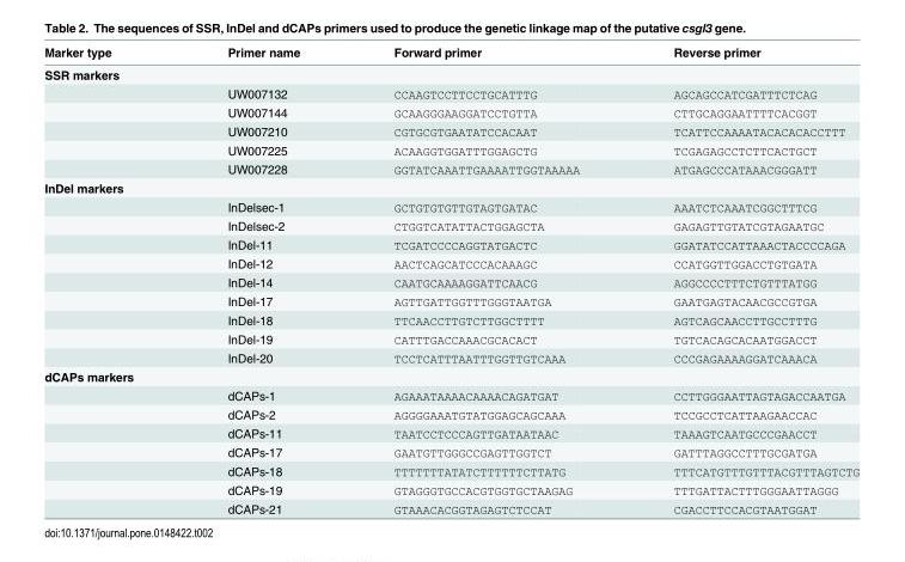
<table><thead><tr><td>Marker type</td><td>Primer name</td><td>Forward primer</td><td>Reverse primer</td></tr></thead><tbody><tr><td colspan="4">SSR markers</td></tr><tr><td></td><td>UW007132</td><td>CCAAGTCCTTCCTGCATTTG</td><td>AGCAGCCATCGATTTCTCAG</td></tr><tr><td></td><td>UW007144</td><td>GCAAGGGAAGGATCCTGTTA</td><td>CTTGCAGGAATTTTCACGGT</td></tr><tr><td></td><td>UW007210</td><td>CGTGCGTGAATATCCACAAT</td><td>TCATTCCAAAATACACACACCTTT</td></tr><tr><td></td><td>UW007225</td><td>ACAAGGTGGATTTGGAGCTG</td><td>TCGAGAGCCTCTTCACTGCT</td></tr><tr><td></td><td>UW007228</td><td>GGTATCAAATTGAAAATTGGTAAAAA</td><td>ATGAGCCCATAAACGGGATT</td></tr><tr><td colspan="4">InDel markers</td></tr><tr><td></td><td>InDelsec-1</td><td>GCTGTGTGTTGTAGTGATAC</td><td>AAATCTCAAATCGGCTTTCG</td></tr><tr><td></td><td>InDelsec-2</td><td>CTGGTCATATTACTGGAGCTA</td><td>GAGAGTTGTATCGTAGAATGC</td></tr><tr><td></td><td>InDel-11</td><td>TCGATCCCCAGGTATGACTC</td><td>GGATATCCATTAAACTACCCCAGA</td></tr><tr><td></td><td>InDel-12</td><td>AACTCAGCATCCCACAAAGC</td><td>CCATGGTTGGACCTGTGATA</td></tr><tr><td></td><td>InDel-14</td><td>CAATGCAAAAGGATTCAACG</td><td>AGGCCCCTTTCTGTTTATGG</td></tr><tr><td></td><td>InDel-17</td><td>AGTTGATTGGTTTGGGTAATGA</td><td>GAATGAGTACAACGCCGTGA</td></tr><tr><td></td><td>InDel-18</td><td>TTCAACCTTGTCTTGGCTTTT</td><td>AGTCAGCAACCTTGCCTTTG</td></tr><tr><td></td><td>InDel-19</td><td>CATTTGACCAAACGCACACT</td><td>TGTCACAGCACAATGGACCT</td></tr><tr><td></td><td>InDel-20</td><td>TCCTCATTTAATTTGGTTGTCAAA</td><td>CCCGAGAAAAGGATCAAACA</td></tr><tr><td colspan="4">dCAPs markers</td></tr><tr><td></td><td>dCAPs-1</td><td>AGAAATAAAACAAAACAGATGAT</td><td>CCTTGGGAATTAGTAGACCAATGA</td></tr><tr><td></td><td>dCAPs-2</td><td>AGGGGAAATGTATGGAGCAGCAAA</td><td>TCCGCCTCATTAAGAACCAC</td></tr><tr><td></td><td>dCAPs-11</td><td>TAATCCTCCCAGTTGATAATAAC</td><td>TAAAGTCAATGCCCGAACCT</td></tr><tr><td></td><td>dCAPs-17</td><td>GAATGTTGGGCCGAGTTGGTCT</td><td>GATTTAGGCCTTTGCGATGA</td></tr><tr><td></td><td>dCAPs-18</td><td>TTTTTTTATATCTTTTTTCTTATG</td><td>TTTCATGTTTGTTTACGTTTAGTCTG</td></tr><tr><td></td><td>dCAPs-19</td><td>GTAGGGTGCCACGTGGTGCTAAGAG</td><td>TTTGATTACTTTGGGAATTAGGG</td></tr><tr><td></td><td>dCAPs-21</td><td>GTAAACACGGTAGAGTCTCCAT</td><td>CGACCTTCCACGTAATGGAT</td></tr></tbody></table>